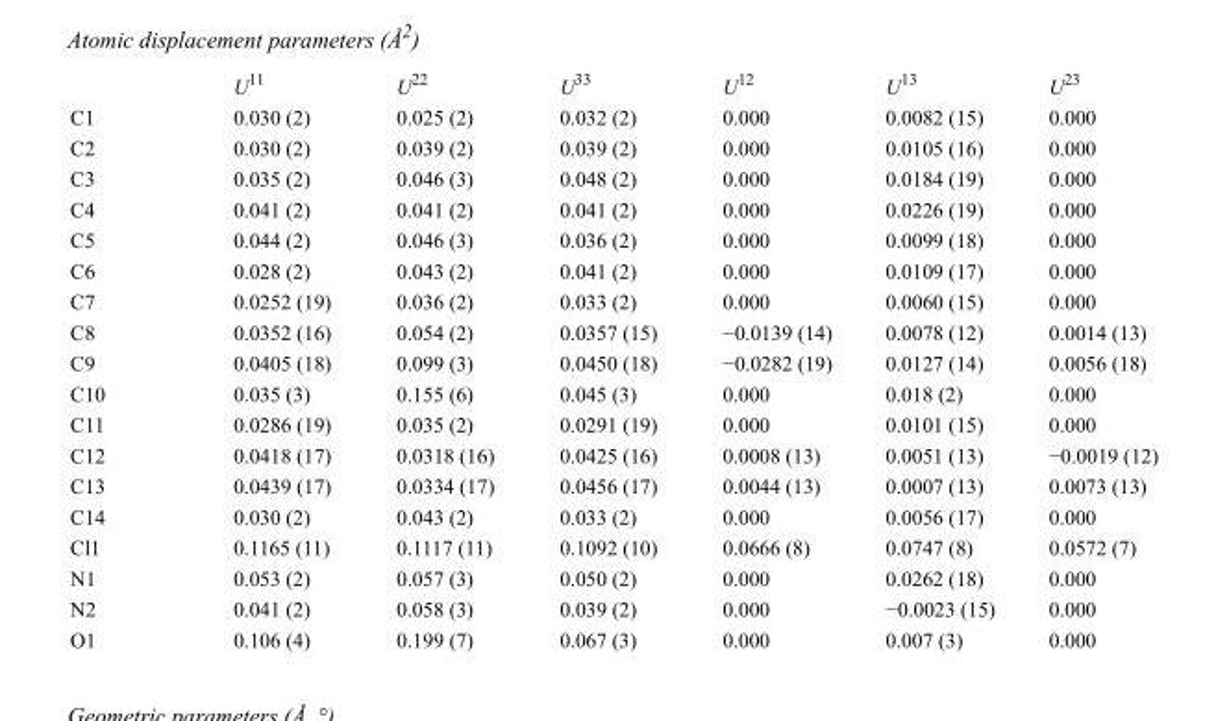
<table><thead><tr><td></td><td>U<sup>11</sup></td><td>U<sup>22</sup></td><td>U<sup>33</sup></td><td>U<sup>12</sup></td><td>U<sup>13</sup></td><td>U<sup>23</sup></td></tr></thead><tbody><tr><td>C1</td><td>0.030 (2)</td><td>0.025 (2)</td><td>0.032 (2)</td><td>0.000</td><td>0.0082 (15)</td><td>0.000</td></tr><tr><td>C2</td><td>0.030 (2)</td><td>0.039 (2)</td><td>0.039 (2)</td><td>0.000</td><td>0.0105 (16)</td><td>0.000</td></tr><tr><td>C3</td><td>0.035 (2)</td><td>0.046 (3)</td><td>0.048 (2)</td><td>0.000</td><td>0.0184 (19)</td><td>0.000</td></tr><tr><td>C4</td><td>0.041 (2)</td><td>0.041 (2)</td><td>0.041 (2)</td><td>0.000</td><td>0.0226 (19)</td><td>0.000</td></tr><tr><td>C5</td><td>0.044 (2)</td><td>0.046 (3)</td><td>0.036 (2)</td><td>0.000</td><td>0.0099 (18)</td><td>0.000</td></tr><tr><td>C6</td><td>0.028 (2)</td><td>0.043 (2)</td><td>0.041 (2)</td><td>0.000</td><td>0.0109 (17)</td><td>0.000</td></tr><tr><td>C7</td><td>0.0252 (19)</td><td>0.036 (2)</td><td>0.033 (2)</td><td>0.000</td><td>0.0060 (15)</td><td>0.000</td></tr><tr><td>C8</td><td>0.0352 (16)</td><td>0.054 (2)</td><td>0.0357 (15)</td><td>−0.0139 (14)</td><td>0.0078 (12)</td><td>0.0014 (13)</td></tr><tr><td>C9</td><td>0.0405 (18)</td><td>0.099 (3)</td><td>0.0450 (18)</td><td>−0.0282 (19)</td><td>0.0127 (14)</td><td>0.0056 (18)</td></tr><tr><td>C10</td><td>0.035 (3)</td><td>0.155 (6)</td><td>0.045 (3)</td><td>0.000</td><td>0.018 (2)</td><td>0.000</td></tr><tr><td>C11</td><td>0.0286 (19)</td><td>0.035 (2)</td><td>0.0291 (19)</td><td>0.000</td><td>0.0101 (15)</td><td>0.000</td></tr><tr><td>C12</td><td>0.0418 (17)</td><td>0.0318 (16)</td><td>0.0425 (16)</td><td>0.0008 (13)</td><td>0.0051 (13)</td><td>−0.0019 (12)</td></tr><tr><td>C13</td><td>0.0439 (17)</td><td>0.0334 (17)</td><td>0.0456 (17)</td><td>0.0044 (13)</td><td>0.0007 (13)</td><td>0.0073 (13)</td></tr><tr><td>C14</td><td>0.030 (2)</td><td>0.043 (2)</td><td>0.033 (2)</td><td>0.000</td><td>0.0056 (17)</td><td>0.000</td></tr><tr><td>Cl1</td><td>0.1165 (11)</td><td>0.1117 (11)</td><td>0.1092 (10)</td><td>0.0666 (8)</td><td>0.0747 (8)</td><td>0.0572 (7)</td></tr><tr><td>N1</td><td>0.053 (2)</td><td>0.057 (3)</td><td>0.050 (2)</td><td>0.000</td><td>0.0262 (18)</td><td>0.000</td></tr><tr><td>N2</td><td>0.041 (2)</td><td>0.058 (3)</td><td>0.039 (2)</td><td>0.000</td><td>−0.0023 (15)</td><td>0.000</td></tr><tr><td>O1</td><td>0.106 (4)</td><td>0.199 (7)</td><td>0.067 (3)</td><td>0.000</td><td>0.007 (3)</td><td>0.000</td></tr></tbody></table>